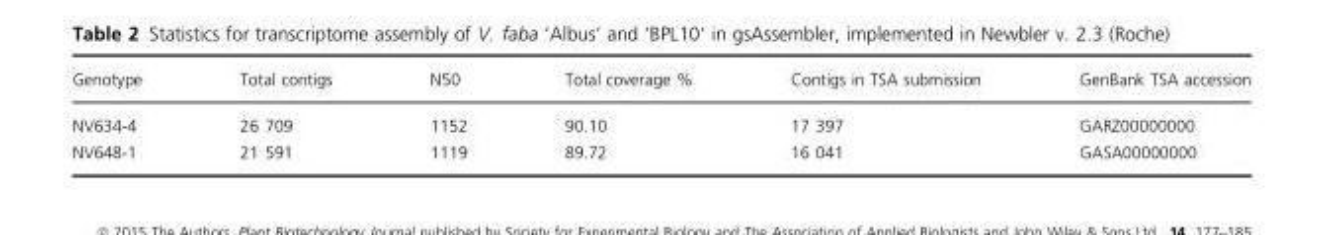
<table><thead><tr><td>Genotype</td><td>Total contigs</td><td>N50</td><td>Total coverage %</td><td>Contigs in TSA submission</td><td>GenBank TSA accession</td></tr></thead><tbody><tr><td>NV634-4</td><td>26 709</td><td>1152</td><td>90.10</td><td>17 397</td><td>GARZ00000000</td></tr><tr><td>NV648-1</td><td>21 591</td><td>1119</td><td>89.72</td><td>16 041</td><td>GASA00000000</td></tr></tbody></table>